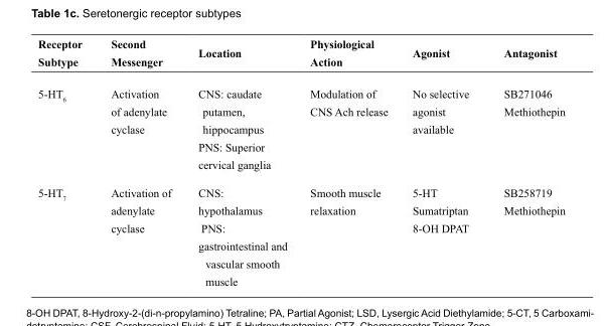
<table><thead><tr><td>Receptor Subtype</td><td>Second Messenger</td><td>Location</td><td>Physiological Action</td><td>Agonist</td><td>Antagonist</td></tr></thead><tbody><tr><td>5-HT<sub>6</sub></td><td>Activation of adenylate cyclase</td><td>CNS: caudate putamen, hippocampus PNS: Superior cervical ganglia</td><td>Modulation of CNS Ach release</td><td>No selective agonist available</td><td>SB271046 Methiothepin</td></tr><tr><td>5-HT<sub>7</sub></td><td>Activation of adenylate cyclase</td><td>CNS: hypothalamus PNS: gastrointestinal and vascular smooth muscle</td><td>Smooth muscle relaxation</td><td>5-HT Sumatriptan 8-OH DPAT</td><td>SB258719 Methiothepin</td></tr></tbody></table>